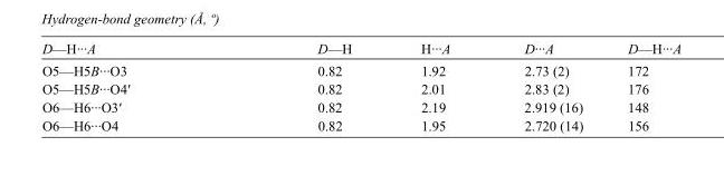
<table><tbody><tr><td>D—H···A</td><td>D—H</td><td>H···A</td><td>D···A</td><td>D—H···A</td></tr><tr><td>O5—H5B···O3</td><td>0.82</td><td>1.92</td><td>2.73 (2)</td><td>172</td></tr><tr><td>O5—H5B···O4′</td><td>0.82</td><td>2.01</td><td>2.83 (2)</td><td>176</td></tr><tr><td>O6—H6···O3′</td><td>0.82</td><td>2.19</td><td>2.919 (16)</td><td>148</td></tr><tr><td>O6—H6···O4</td><td>0.82</td><td>1.95</td><td>2.720 (14)</td><td>156</td></tr></tbody></table>